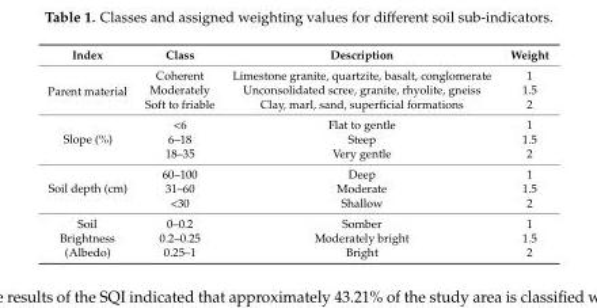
<table><thead><tr><td>Index</td><td>Class</td><td>Description</td><td>Weight</td></tr></thead><tbody><tr><td rowspan="3">Parent material</td><td>Coherent</td><td>Limestone granite, quartzite, basalt, conglomerate</td><td>1</td></tr><tr><td>Moderately</td><td>Unconsolidated scree, granite, rhyolite, gneiss</td><td>1.5</td></tr><tr><td>Soft to friable</td><td>Clay, marl, sand, superficial formations</td><td>2</td></tr><tr><td rowspan="3">Slope (%)</td><td>&lt;6</td><td>Flat to gentle</td><td>1</td></tr><tr><td>6–18</td><td>Steep</td><td>1.5</td></tr><tr><td>18–35</td><td>Very gentle</td><td>2</td></tr><tr><td rowspan="3">Soil depth (cm)</td><td>60–100</td><td>Deep</td><td>1</td></tr><tr><td>31–60</td><td>Moderate</td><td>1.5</td></tr><tr><td>&lt;30</td><td>Shallow</td><td>2</td></tr><tr><td rowspan="3">Soil Brightness (Albedo)</td><td>0–0.2</td><td>Somber</td><td>1</td></tr><tr><td>0.2–0.25</td><td>Moderately bright</td><td>1.5</td></tr><tr><td>0.25–1</td><td>Bright</td><td>2</td></tr></tbody></table>